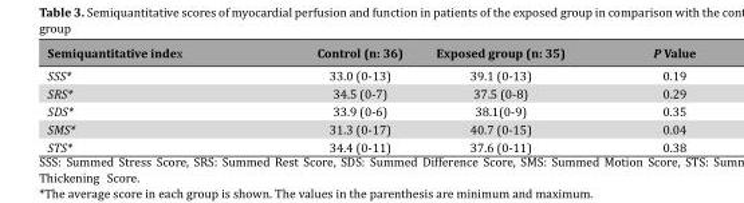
<table><thead><tr><td>Semiquantitative index</td><td>Control (n: 36)</td><td>Exposed group (n: 35)</td><td>P Value</td></tr></thead><tbody><tr><td>SSS*</td><td>33.0 (0-13)</td><td>39.1 (0-13)</td><td>0.19</td></tr><tr><td>SRS*</td><td>34.5 (0-7)</td><td>37.5 (0-8)</td><td>0.29</td></tr><tr><td>SDS*</td><td>33.9 (0-6)</td><td>38.1(0-9)</td><td>0.35</td></tr><tr><td>SMS*</td><td>31.3 (0-17)</td><td>40.7 (0-15)</td><td>0.04</td></tr><tr><td>STS*</td><td>34.4 (0-11)</td><td>37.6 (0-11)</td><td>0.38</td></tr></tbody></table>